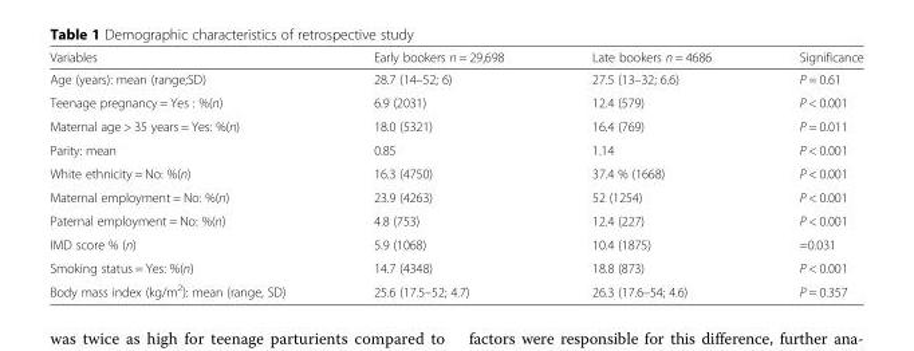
<table><thead><tr><td>Variables</td><td>Early bookers n = 29,698</td><td>Late bookers n = 4686</td><td>Significance</td></tr></thead><tbody><tr><td>Age (years): mean (range;SD)</td><td>28.7 (14–52; 6)</td><td>27.5 (13–32; 6.6)</td><td>P = 0.61</td></tr><tr><td>Teenage pregnancy = Yes : %(n)</td><td>6.9 (2031)</td><td>12.4 (579)</td><td>P &lt; 0.001</td></tr><tr><td>Maternal age &gt; 35 years = Yes: %(n)</td><td>18.0 (5321)</td><td>16.4 (769)</td><td>P = 0.011</td></tr><tr><td>Parity: mean</td><td>0.85</td><td>1.14</td><td>P &lt; 0.001</td></tr><tr><td>White ethnicity = No: %(n)</td><td>16.3 (4750)</td><td>37.4 % (1668)</td><td>P &lt; 0.001</td></tr><tr><td>Maternal employment = No: %(n)</td><td>23.9 (4263)</td><td>52 (1254)</td><td>P &lt; 0.001</td></tr><tr><td>Paternal employment = No: %(n)</td><td>4.8 (753)</td><td>12.4 (227)</td><td>P &lt; 0.001</td></tr><tr><td>IMD score % (n)</td><td>5.9 (1068)</td><td>10.4 (1875)</td><td>=0.031</td></tr><tr><td>Smoking status = Yes: %(n)</td><td>14.7 (4348)</td><td>18.8 (873)</td><td>P &lt; 0.001</td></tr><tr><td>Body mass index (kg/m<sup>2</sup>): mean (range, SD)</td><td>25.6 (17.5–52; 4.7)</td><td>26.3 (17.6–54; 4.6)</td><td>P = 0.357</td></tr></tbody></table>